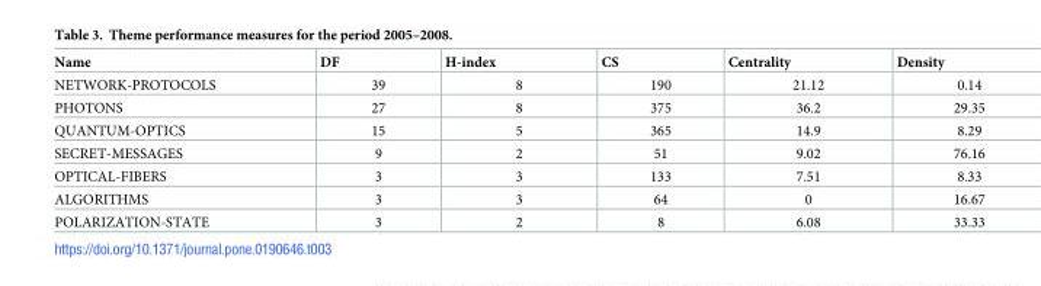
<table><thead><tr><td>Name</td><td>DF</td><td>H-index</td><td>CS</td><td>Centrality</td><td>Density</td></tr></thead><tbody><tr><td>NETWORK-PROTOCOLS</td><td>39</td><td>8</td><td>190</td><td>21.12</td><td>0.14</td></tr><tr><td>PHOTONS</td><td>27</td><td>8</td><td>375</td><td>36.2</td><td>29.35</td></tr><tr><td>QUANTUM-OPTICS</td><td>15</td><td>5</td><td>365</td><td>14.9</td><td>8.29</td></tr><tr><td>SECRET-MESSAGES</td><td>9</td><td>2</td><td>51</td><td>9.02</td><td>76.16</td></tr><tr><td>OPTICAL-FIBERS</td><td>3</td><td>3</td><td>133</td><td>7.51</td><td>8.33</td></tr><tr><td>ALGORITHMS</td><td>3</td><td>3</td><td>64</td><td>0</td><td>16.67</td></tr><tr><td>POLARIZATION-STATE</td><td>3</td><td>2</td><td>8</td><td>6.08</td><td>33.33</td></tr></tbody></table>